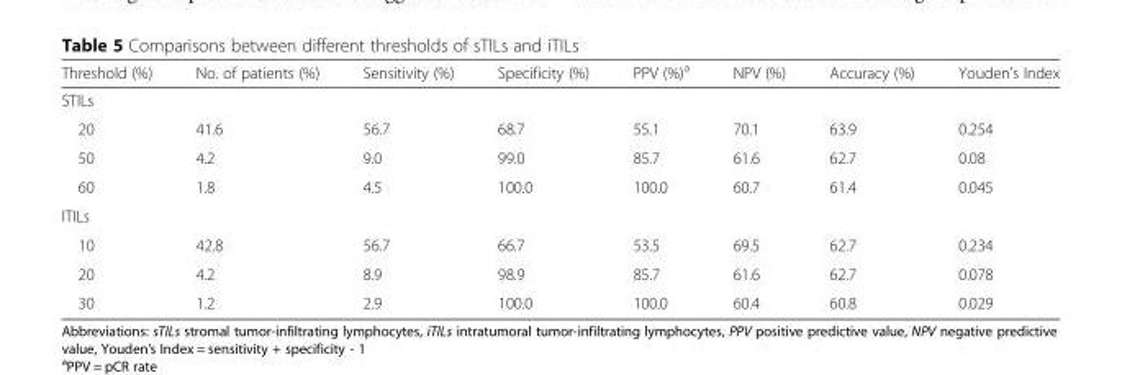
<table><thead><tr><td>Threshold (%)</td><td>No. of patients (%)</td><td>Sensitivity (%)</td><td>Specificity (%)</td><td>PPV (%)<sup>a</sup></td><td>NPV (%)</td><td>Accuracy (%)</td><td>Youden’s Index</td></tr></thead><tbody><tr><td colspan="8">STILs</td></tr><tr><td>20</td><td>41.6</td><td>56.7</td><td>68.7</td><td>55.1</td><td>70.1</td><td>63.9</td><td>0.254</td></tr><tr><td>50</td><td>4.2</td><td>9.0</td><td>99.0</td><td>85.7</td><td>61.6</td><td>62.7</td><td>0.08</td></tr><tr><td>60</td><td>1.8</td><td>4.5</td><td>100.0</td><td>100.0</td><td>60.7</td><td>61.4</td><td>0.045</td></tr><tr><td colspan="8">ITILs</td></tr><tr><td>10</td><td>42.8</td><td>56.7</td><td>66.7</td><td>53.5</td><td>69.5</td><td>62.7</td><td>0.234</td></tr><tr><td>20</td><td>4.2</td><td>8.9</td><td>98.9</td><td>85.7</td><td>61.6</td><td>62.7</td><td>0.078</td></tr><tr><td>30</td><td>1.2</td><td>2.9</td><td>100.0</td><td>100.0</td><td>60.4</td><td>60.8</td><td>0.029</td></tr></tbody></table>